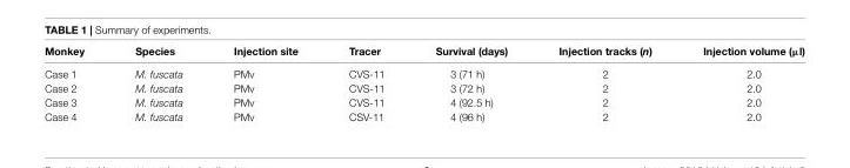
<table><thead><tr><td>Monkey</td><td>Species</td><td>Injection site</td><td>Tracer</td><td>Survival (days)</td><td>Injection tracks (n)</td><td>Injection volume (µl)</td></tr></thead><tbody><tr><td>Case 1</td><td>M. fuscata</td><td>PMv</td><td>CVS-11</td><td>3 (71 h)</td><td>2</td><td>2.0</td></tr><tr><td>Case 2</td><td>M. fuscata</td><td>PMv</td><td>CVS-11</td><td>3 (72 h)</td><td>2</td><td>2.0</td></tr><tr><td>Case 3</td><td>M. fuscata</td><td>PMv</td><td>CVS-11</td><td>4 (92.5 h)</td><td>2</td><td>2.0</td></tr><tr><td>Case 4</td><td>M. fuscata</td><td>PMv</td><td>CSV-11</td><td>4 (96 h)</td><td>2</td><td>2.0</td></tr></tbody></table>